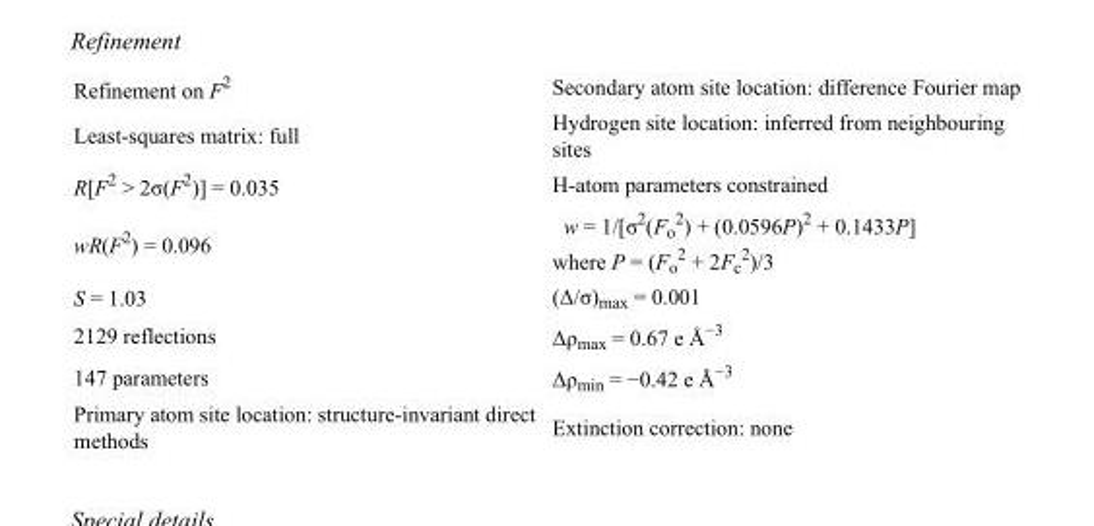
<table><tbody><tr><td>Refinement on F<sup>2</sup></td><td>Secondary atom site location: difference Fourier map</td></tr><tr><td>Least-squares matrix: full</td><td>Hydrogen site location: inferred from neighbouring sites</td></tr><tr><td>R[F<sup>2</sup> &gt; 2σ(F<sup>2</sup>)] = 0.035</td><td>H-atom parameters constrained</td></tr><tr><td>wR(F<sup>2</sup>) = 0.096</td><td>w = 1/[σ<sup>2</sup>(F<sub>o</sub> <sup>2</sup>) + (0.0596P)<sup>2</sup> + 0.1433P] where P = (F<sub>o</sub> <sup>2</sup> + 2F<sub>c</sub> <sup>2</sup>)/3</td></tr><tr><td>S = 1.03</td><td>(Δ/σ)<sub>max</sub> = 0.001</td></tr><tr><td>2129 reflections</td><td>Δρ<sub>max</sub> = 0.67 e Å<sup>−3</sup></td></tr><tr><td>147 parameters</td><td>Δρ<sub>min</sub> = −0.42 e Å<sup>−3</sup></td></tr><tr><td>Primary atom site location: structure-invariant direct methods</td><td>Extinction correction: none</td></tr></tbody></table>